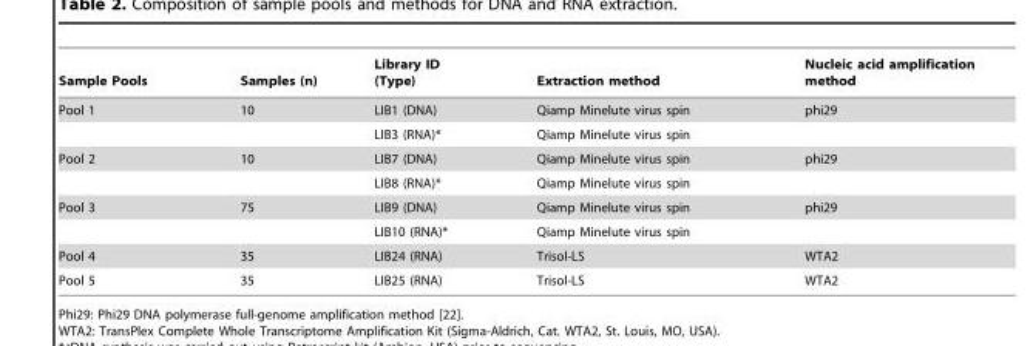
<table><thead><tr><td>Sample Pools</td><td>Samples (n)</td><td>Library ID (Type)</td><td>Extraction method</td><td>Nucleic acid amplification method</td></tr></thead><tbody><tr><td rowspan="2">Pool 1</td><td>10</td><td>LIB1 (DNA)</td><td>Qiamp Minelute virus spin</td><td>phi29</td></tr><tr><td></td><td>LIB3 (RNA)*</td><td>Qiamp Minelute virus spin</td><td></td></tr><tr><td rowspan="2">Pool 2</td><td>10</td><td>LIB7 (DNA)</td><td>Qiamp Minelute virus spin</td><td>phi29</td></tr><tr><td></td><td>LIB8 (RNA)*</td><td>Qiamp Minelute virus spin</td><td></td></tr><tr><td rowspan="2">Pool 3</td><td>75</td><td>LIB9 (DNA)</td><td>Qiamp Minelute virus spin</td><td>phi29</td></tr><tr><td></td><td>LIB10 (RNA)*</td><td>Qiamp Minelute virus spin</td><td></td></tr><tr><td>Pool 4</td><td>35</td><td>LIB24 (RNA)</td><td>Trisol-LS</td><td>WTA2</td></tr><tr><td>Pool 5</td><td>35</td><td>LIB25 (RNA)</td><td>Trisol-LS</td><td>WTA2</td></tr></tbody></table>